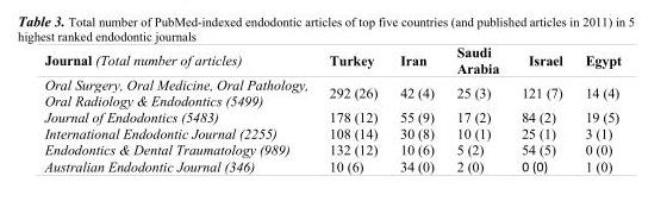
<table><thead><tr><td>Journal (Total number of articles)</td><td>Turkey</td><td>Iran</td><td>Saudi Arabia</td><td>Israel</td><td>Egypt</td></tr></thead><tbody><tr><td>Oral Surgery, Oral Medicine, Oral Pathology, Oral Radiology &amp; Endodontics (5499)</td><td>292 (26)</td><td>42 (4)</td><td>25 (3)</td><td>121 (7)</td><td>14 (4)</td></tr><tr><td>Journal of Endodontics (5483)</td><td>178 (12)</td><td>55 (9)</td><td>17 (2)</td><td>84 (2)</td><td>19 (5)</td></tr><tr><td>International Endodontic Journal (2255)</td><td>108 (14)</td><td>30 (8)</td><td>10 (1)</td><td>25 (1)</td><td>3 (1)</td></tr><tr><td>Endodontics &amp; Dental Traumatology (989)</td><td>132 (12)</td><td>10 (6)</td><td>5 (2)</td><td>54 (5)</td><td>0 (0)</td></tr><tr><td>Australian Endodontic Journal (346)</td><td>10 (6)</td><td>34 (0)</td><td>2 (0)</td><td>0 (0)</td><td>1 (0)</td></tr></tbody></table>